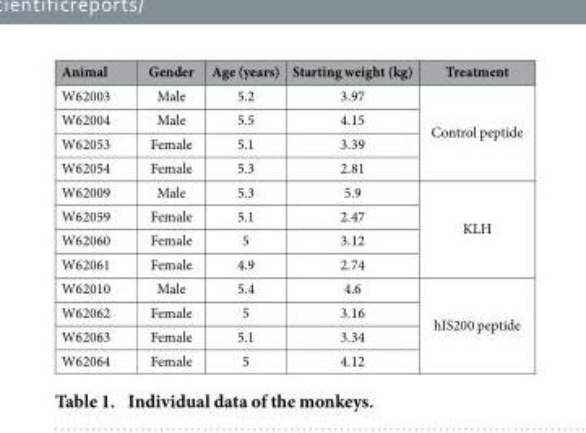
<table><thead><tr><td>Animal</td><td>Gender</td><td>Age (years)</td><td>Starting weight (kg)</td><td>Treatment</td></tr></thead><tbody><tr><td>W62003</td><td>Male</td><td>5.2</td><td>3.97</td><td rowspan="4">Control peptide</td></tr><tr><td>W62004</td><td>Male</td><td>5.5</td><td>4.15</td></tr><tr><td>W62053</td><td>Female</td><td>5.1</td><td>3.39</td></tr><tr><td>W62054</td><td>Female</td><td>5.3</td><td>2.81</td></tr><tr><td>W62009</td><td>Male</td><td>5.3</td><td>5.9</td><td rowspan="4">KLH</td></tr><tr><td>W62059</td><td>Female</td><td>5.1</td><td>2.47</td></tr><tr><td>W62060</td><td>Female</td><td>5</td><td>3.12</td></tr><tr><td>W62061</td><td>Female</td><td>4.9</td><td>2.74</td></tr><tr><td>W62010</td><td>Male</td><td>5.4</td><td>4.6</td><td rowspan="4">hIS200 peptide</td></tr><tr><td>W62062</td><td>Female</td><td>5</td><td>3.16</td></tr><tr><td>W62063</td><td>Female</td><td>5.1</td><td>3.34</td></tr><tr><td>W62064</td><td>Female</td><td>5</td><td>4.12</td></tr></tbody></table>